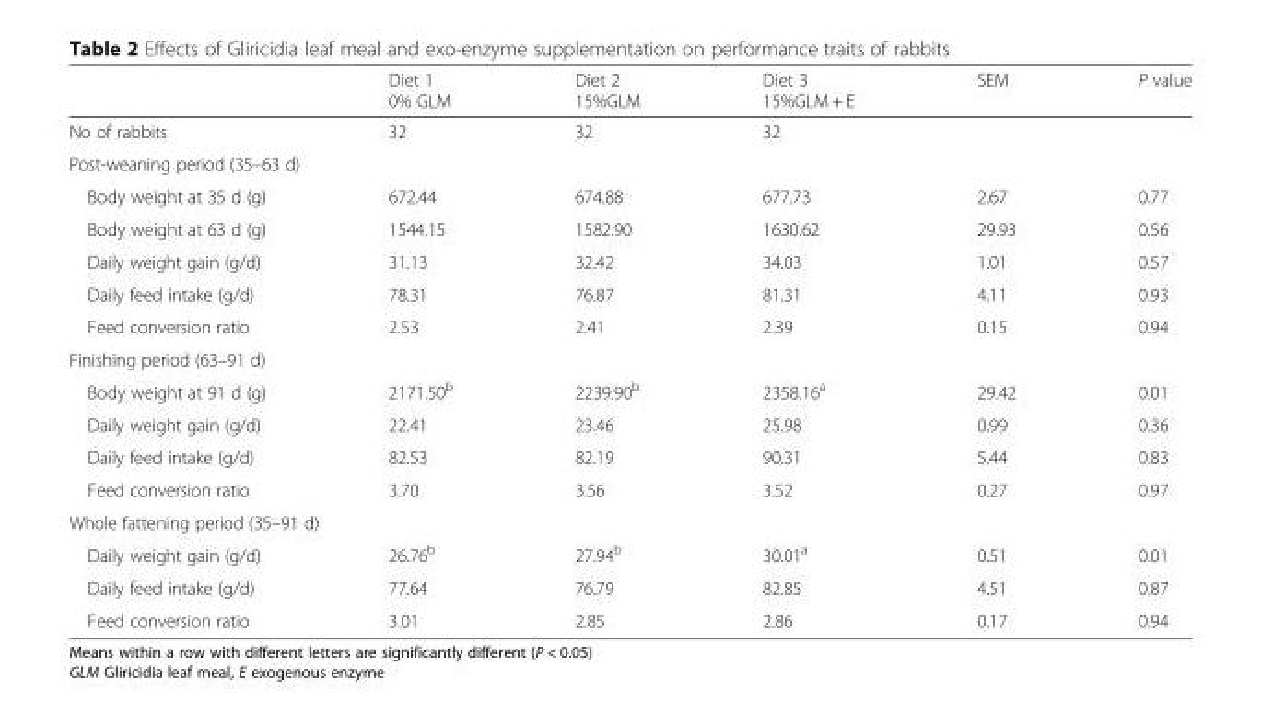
<table><thead><tr><td></td><td>Diet 1 0% GLM</td><td>Diet 2 15%GLM</td><td>Diet 3 15%GLM + E</td><td>SEM</td><td>P value</td></tr></thead><tbody><tr><td>No of rabbits</td><td>32</td><td>32</td><td>32</td><td></td><td></td></tr><tr><td colspan="6">Post-weaning period (35–63 d)</td></tr><tr><td>Body weight at 35 d (g)</td><td>672.44</td><td>674.88</td><td>677.73</td><td>2.67</td><td>0.77</td></tr><tr><td>Body weight at 63 d (g)</td><td>1544.15</td><td>1582.90</td><td>1630.62</td><td>29.93</td><td>0.56</td></tr><tr><td>Daily weight gain (g/d)</td><td>31.13</td><td>32.42</td><td>34.03</td><td>1.01</td><td>0.57</td></tr><tr><td>Daily feed intake (g/d)</td><td>78.31</td><td>76.87</td><td>81.31</td><td>4.11</td><td>0.93</td></tr><tr><td>Feed conversion ratio</td><td>2.53</td><td>2.41</td><td>2.39</td><td>0.15</td><td>0.94</td></tr><tr><td colspan="6">Finishing period (63–91 d)</td></tr><tr><td>Body weight at 91 d (g)</td><td>2171.50<sup>b</sup></td><td>2239.90<sup>b</sup></td><td>2358.16<sup>a</sup></td><td>29.42</td><td>0.01</td></tr><tr><td>Daily weight gain (g/d)</td><td>22.41</td><td>23.46</td><td>25.98</td><td>0.99</td><td>0.36</td></tr><tr><td>Daily feed intake (g/d)</td><td>82.53</td><td>82.19</td><td>90.31</td><td>5.44</td><td>0.83</td></tr><tr><td>Feed conversion ratio</td><td>3.70</td><td>3.56</td><td>3.52</td><td>0.27</td><td>0.97</td></tr><tr><td colspan="6">Whole fattening period (35–91 d)</td></tr><tr><td>Daily weight gain (g/d)</td><td>26.76<sup>b</sup></td><td>27.94<sup>b</sup></td><td>30.01<sup>a</sup></td><td>0.51</td><td>0.01</td></tr><tr><td>Daily feed intake (g/d)</td><td>77.64</td><td>76.79</td><td>82.85</td><td>4.51</td><td>0.87</td></tr><tr><td>Feed conversion ratio</td><td>3.01</td><td>2.85</td><td>2.86</td><td>0.17</td><td>0.94</td></tr></tbody></table>